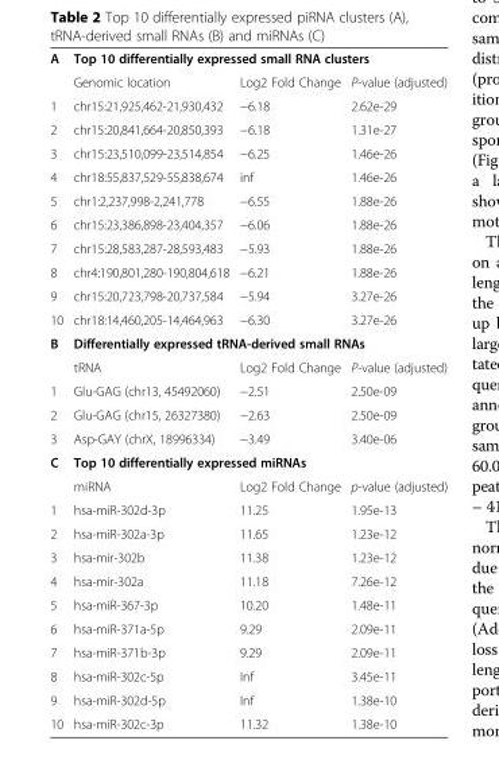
<table><tbody><tr><td rowspan="2">A</td><td colspan="3">Top 10 differentially expressed small RNA clusters</td></tr><tr><td>Genomic location</td><td>Log2 Fold Change</td><td>P-value (adjusted)</td></tr><tr><td>1</td><td>chr15:21,925,462-21,930,432</td><td>−6.18</td><td>2.62e-29</td></tr><tr><td>2</td><td>chr15:20,841,664-20,850,393</td><td>−6.18</td><td>1.31e-27</td></tr><tr><td>3</td><td>chr15:23,510,099-23,514,854</td><td>−6.25</td><td>1.46e-26</td></tr><tr><td>4</td><td>chr18:55,837,529-55,838,674</td><td>inf</td><td>1.46e-26</td></tr><tr><td>5</td><td>chr1:2,237,998-2,241,778</td><td>−6.55</td><td>1.88e-26</td></tr><tr><td>6</td><td>chr15:23,386,898-23,404,357</td><td>−6.06</td><td>1.88e-26</td></tr><tr><td>7</td><td>chr15:28,583,287-28,593,483</td><td>−5.93</td><td>1.88e-26</td></tr><tr><td>8</td><td>chr4:190,801,280-190,804,618</td><td>−6.21</td><td>1.88e-26</td></tr><tr><td>9</td><td>chr15:20,723,798-20,737,584</td><td>−5.94</td><td>3.27e-26</td></tr><tr><td>10</td><td>chr18:14,460,205-14,464,963</td><td>−6.30</td><td>3.27e-26</td></tr><tr><td rowspan="2">B</td><td colspan="3">Differentially expressed tRNA-derived small RNAs</td></tr><tr><td>tRNA</td><td>Log2 Fold Change</td><td>P-value (adjusted)</td></tr><tr><td>1</td><td>Glu-GAG (chr13, 45492060)</td><td>−2.51</td><td>2.50e-09</td></tr><tr><td>2</td><td>Glu-GAG (chr15, 26327380)</td><td>−2.63</td><td>2.50e-09</td></tr><tr><td>3</td><td>Asp-GAY (chrX, 18996334)</td><td>−3.49</td><td>3.40e-06</td></tr><tr><td rowspan="2">C</td><td colspan="3">Top 10 differentially expressed miRNAs</td></tr><tr><td>miRNA</td><td>Log2 Fold Change</td><td>p-value (adjusted)</td></tr><tr><td>1</td><td>hsa-miR-302d-3p</td><td>11.25</td><td>1.95e-13</td></tr><tr><td>2</td><td>hsa-miR-302a-3p</td><td>11.65</td><td>1.23e-12</td></tr><tr><td>3</td><td>hsa-mir-302b</td><td>11.38</td><td>1.23e-12</td></tr><tr><td>4</td><td>hsa-mir-302a</td><td>11.18</td><td>7.26e-12</td></tr><tr><td>5</td><td>hsa-miR-367-3p</td><td>10.20</td><td>1.48e-11</td></tr><tr><td>6</td><td>hsa-miR-371a-5p</td><td>9.29</td><td>2.09e-11</td></tr><tr><td>7</td><td>hsa-miR-371b-3p</td><td>9.29</td><td>2.09e-11</td></tr><tr><td>8</td><td>hsa-miR-302c-5p</td><td>Inf</td><td>3.45e-11</td></tr><tr><td>9</td><td>hsa-miR-302d-5p</td><td>Inf</td><td>1.38e-10</td></tr><tr><td>10</td><td>hsa-miR-302c-3p</td><td>11.32</td><td>1.38e-10</td></tr></tbody></table>